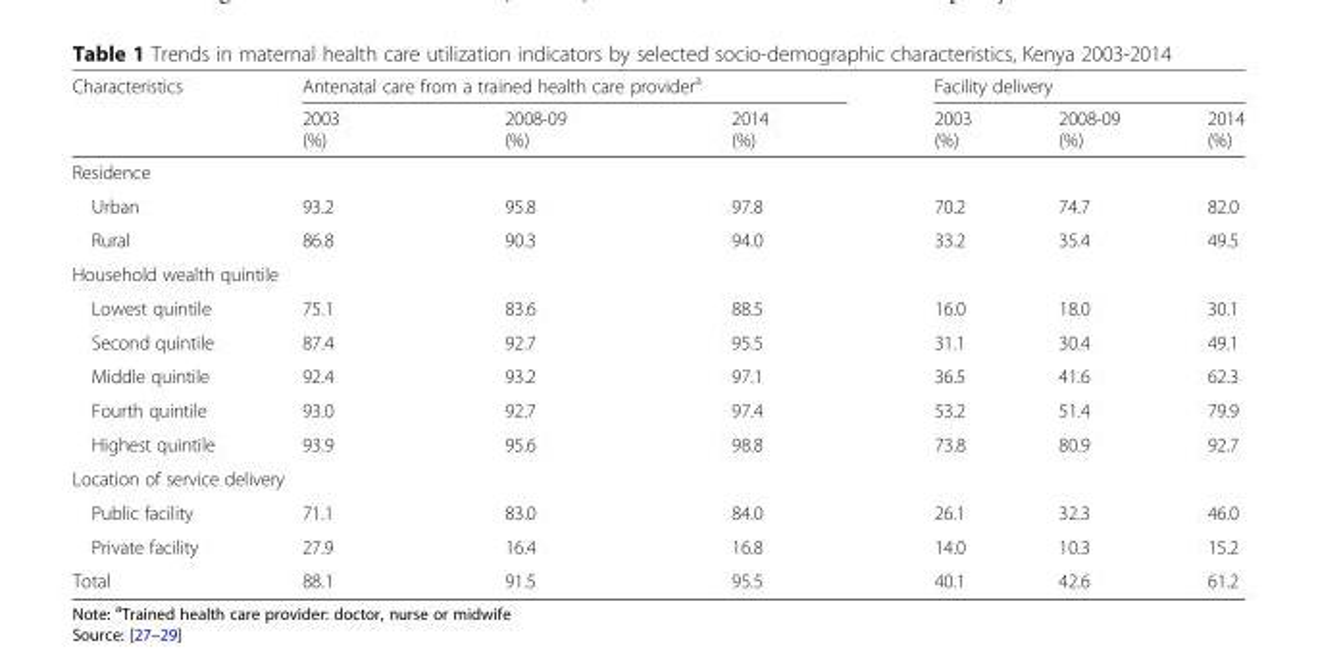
<table><thead><tr><td rowspan="2">Characteristics</td><td colspan="3">Antenatal care from a trained health care provider<sup>a</sup></td><td colspan="3">Facility delivery</td></tr><tr><td>2003 (%)</td><td>2008-09 (%)</td><td>2014 (%)</td><td>2003 (%)</td><td>2008-09 (%)</td><td>2014 (%)</td></tr></thead><tbody><tr><td colspan="7">Residence</td></tr><tr><td>Urban</td><td>93.2</td><td>95.8</td><td>97.8</td><td>70.2</td><td>74.7</td><td>82.0</td></tr><tr><td>Rural</td><td>86.8</td><td>90.3</td><td>94.0</td><td>33.2</td><td>35.4</td><td>49.5</td></tr><tr><td colspan="7">Household wealth quintile</td></tr><tr><td>Lowest quintile</td><td>75.1</td><td>83.6</td><td>88.5</td><td>16.0</td><td>18.0</td><td>30.1</td></tr><tr><td>Second quintile</td><td>87.4</td><td>92.7</td><td>95.5</td><td>31.1</td><td>30.4</td><td>49.1</td></tr><tr><td>Middle quintile</td><td>92.4</td><td>93.2</td><td>97.1</td><td>36.5</td><td>41.6</td><td>62.3</td></tr><tr><td>Fourth quintile</td><td>93.0</td><td>92.7</td><td>97.4</td><td>53.2</td><td>51.4</td><td>79.9</td></tr><tr><td>Highest quintile</td><td>93.9</td><td>95.6</td><td>98.8</td><td>73.8</td><td>80.9</td><td>92.7</td></tr><tr><td colspan="7">Location of service delivery</td></tr><tr><td>Public facility</td><td>71.1</td><td>83.0</td><td>84.0</td><td>26.1</td><td>32.3</td><td>46.0</td></tr><tr><td>Private facility</td><td>27.9</td><td>16.4</td><td>16.8</td><td>14.0</td><td>10.3</td><td>15.2</td></tr><tr><td>Total</td><td>88.1</td><td>91.5</td><td>95.5</td><td>40.1</td><td>42.6</td><td>61.2</td></tr></tbody></table>